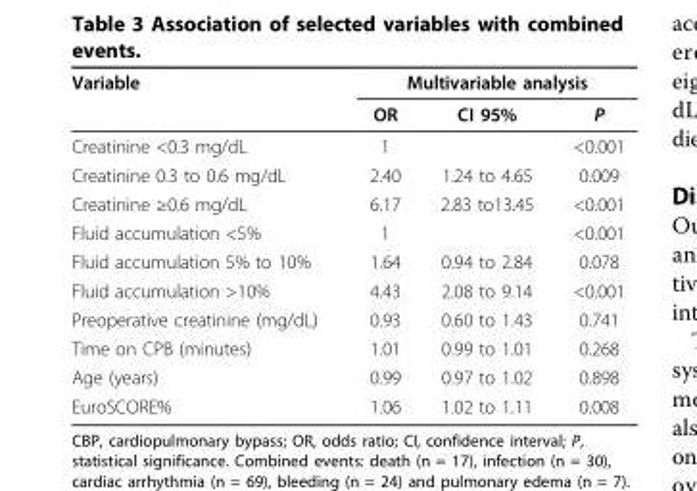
<table><thead><tr><td rowspan="2">Variable</td><td colspan="3">Multivariable analysis</td></tr><tr><td>OR</td><td>CI 95%</td><td>P</td></tr></thead><tbody><tr><td>Creatinine &lt;0.3 mg/dL</td><td>1</td><td></td><td>&lt;0.001</td></tr><tr><td>Creatinine 0.3 to 0.6 mg/dL</td><td>2.40</td><td>1.24 to 4.65</td><td>0.009</td></tr><tr><td>Creatinine ≥0.6 mg/dL</td><td>6.17</td><td>2.83 to13.45</td><td>&lt;0.001</td></tr><tr><td>Fluid accumulation &lt;5%</td><td>1</td><td></td><td>&lt;0.001</td></tr><tr><td>Fluid accumulation 5% to 10%</td><td>1.64</td><td>0.94 to 2.84</td><td>0.078</td></tr><tr><td>Fluid accumulation &gt;10%</td><td>4.43</td><td>2.08 to 9.14</td><td>&lt;0.001</td></tr><tr><td>Preoperative creatinine (mg/dL)</td><td>0.93</td><td>0.60 to 1.43</td><td>0.741</td></tr><tr><td>Time on CPB (minutes)</td><td>1.01</td><td>0.99 to 1.01</td><td>0.268</td></tr><tr><td>Age (years)</td><td>0.99</td><td>0.97 to 1.02</td><td>0.898</td></tr><tr><td>EuroSCORE%</td><td>1.06</td><td>1.02 to 1.11</td><td>0.008</td></tr></tbody></table>